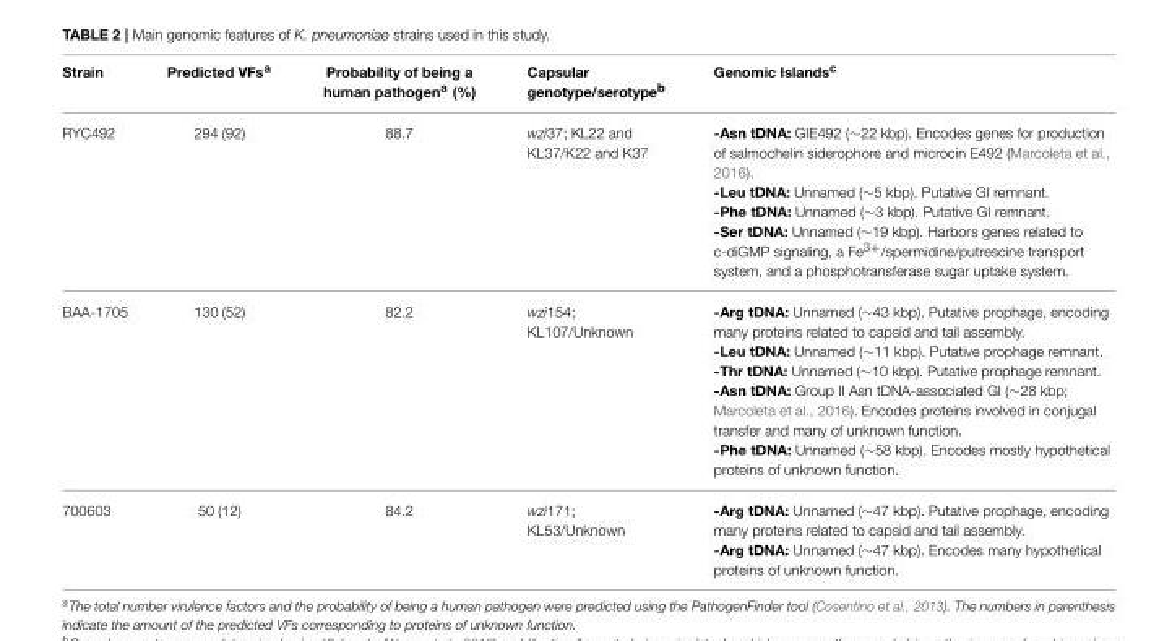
<table><thead><tr><td>Strain</td><td>Predicted VFs<sup>a</sup></td><td>Probability of being a human pathogen<sup>a</sup> (%)</td><td>Capsular genotype/serotype<sup>b</sup></td><td>Genomic Islands<sup>c</sup></td></tr></thead><tbody><tr><td>RYC492</td><td>294 (92)</td><td>88.7</td><td>wzi37; KL22 and KL37/K22 and K37</td><td>-Asn tDNA: GIE492 (∼22 kbp). Encodes genes for production of salmochelin siderophore and microcin E492 (Marcoleta et al., 2016). -Leu tDNA: Unnamed (∼5 kbp). Putative GI remnant. -Phe tDNA: Unnamed (∼3 kbp). Putative GI remnant. -Ser tDNA: Unnamed (∼19 kbp). Harbors genes related to c-diGMP signaling, a Fe3+/spermidine/putrescine transport system, and a phosphotransferase sugar uptake system.</td></tr><tr><td>BAA-1705</td><td>130 (52)</td><td>82.2</td><td>wzi154; KL107/Unknown</td><td>-Arg tDNA: Unnamed (∼43 kbp). Putative prophage, encoding many proteins related to capsid and tail assembly. -Leu tDNA: Unnamed (∼11 kbp). Putative prophage remnant. -Thr tDNA: Unnamed (∼10 kbp). Putative prophage remnant. -Asn tDNA: Group II Asn tDNA-associated GI (∼28 kbp; Marcoleta et al., 2016). Encodes proteins involved in conjugal transfer and many of unknown function. -Phe tDNA: Unnamed (∼58 kbp). Encodes mostly hypothetical proteins of unknown function.</td></tr><tr><td>700603</td><td>50 (12)</td><td>84.2</td><td>wzi171; KL53/Unknown</td><td>-Arg tDNA: Unnamed (∼47 kbp). Putative prophage, encoding many proteins related to capsid and tail assembly. -Arg tDNA: Unnamed (∼47 kbp). Encodes many hypothetical proteins of unknown function.</td></tr></tbody></table>